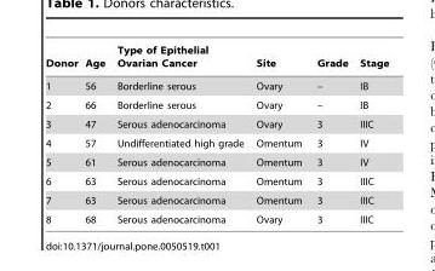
<table><thead><tr><td>Donor</td><td>Age</td><td>Type of Epithelial Ovarian Cancer</td><td>Site</td><td>Grade</td><td>Stage</td></tr></thead><tbody><tr><td>1</td><td>56</td><td>Borderline serous</td><td>Ovary</td><td>–</td><td>IB</td></tr><tr><td>2</td><td>66</td><td>Borderline serous</td><td>Ovary</td><td>–</td><td>IB</td></tr><tr><td>3</td><td>47</td><td>Serous adenocarcinoma</td><td>Ovary</td><td>3</td><td>IIIC</td></tr><tr><td>4</td><td>57</td><td>Undifferentiated high grade</td><td>Omentum</td><td>3</td><td>IV</td></tr><tr><td>5</td><td>61</td><td>Serous adenocarcinoma</td><td>Omentum</td><td>3</td><td>IV</td></tr><tr><td>6</td><td>63</td><td>Serous adenocarcinoma</td><td>Omentum</td><td>3</td><td>IIIC</td></tr><tr><td>7</td><td>63</td><td>Serous adenocarcinoma</td><td>Omentum</td><td>3</td><td>IIIC</td></tr><tr><td>8</td><td>68</td><td>Serous adenocarcinoma</td><td>Ovary</td><td>3</td><td>IIIC</td></tr></tbody></table>